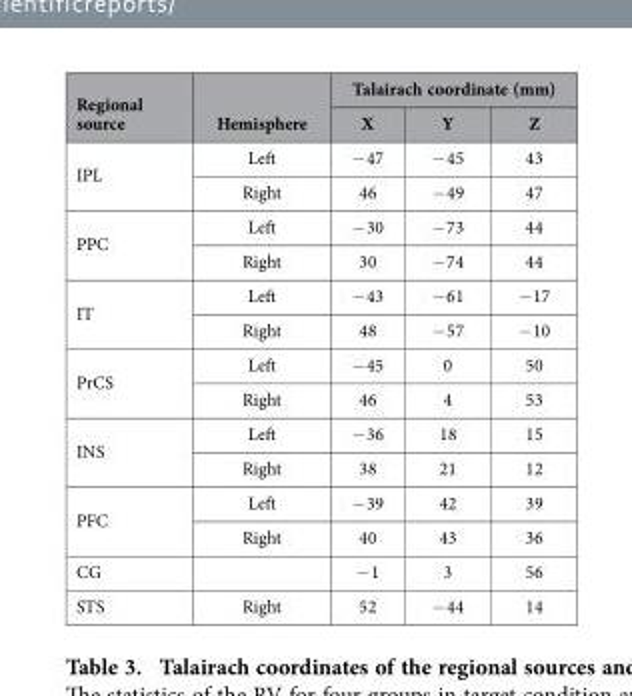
<table><thead><tr><td rowspan="2">Regional source</td><td rowspan="2">Hemisphere</td><td colspan="3">Talairach coordinate (mm)</td></tr><tr><td>X</td><td>Y</td><td>Z</td></tr></thead><tbody><tr><td rowspan="2">IPL</td><td>Left</td><td>− 47</td><td>− 45</td><td>43</td></tr><tr><td>Right</td><td>46</td><td>− 49</td><td>47</td></tr><tr><td rowspan="2">PPC</td><td>Left</td><td>− 30</td><td>− 73</td><td>44</td></tr><tr><td>Right</td><td>30</td><td>− 74</td><td>44</td></tr><tr><td rowspan="2">IT</td><td>Left</td><td>− 43</td><td>− 61</td><td>− 17</td></tr><tr><td>Right</td><td>48</td><td>− 57</td><td>− 10</td></tr><tr><td rowspan="2">PrCS</td><td>Left</td><td>− 45</td><td>0</td><td>50</td></tr><tr><td>Right</td><td>46</td><td>4</td><td>53</td></tr><tr><td rowspan="2">INS</td><td>Left</td><td>− 36</td><td>18</td><td>15</td></tr><tr><td>Right</td><td>38</td><td>21</td><td>12</td></tr><tr><td rowspan="2">PFC</td><td>Left</td><td>− 39</td><td>42</td><td>39</td></tr><tr><td>Right</td><td>40</td><td>43</td><td>36</td></tr><tr><td>CG</td><td></td><td>− 1</td><td>3</td><td>56</td></tr><tr><td>STS</td><td>Right</td><td>52</td><td>− 44</td><td>14</td></tr></tbody></table>